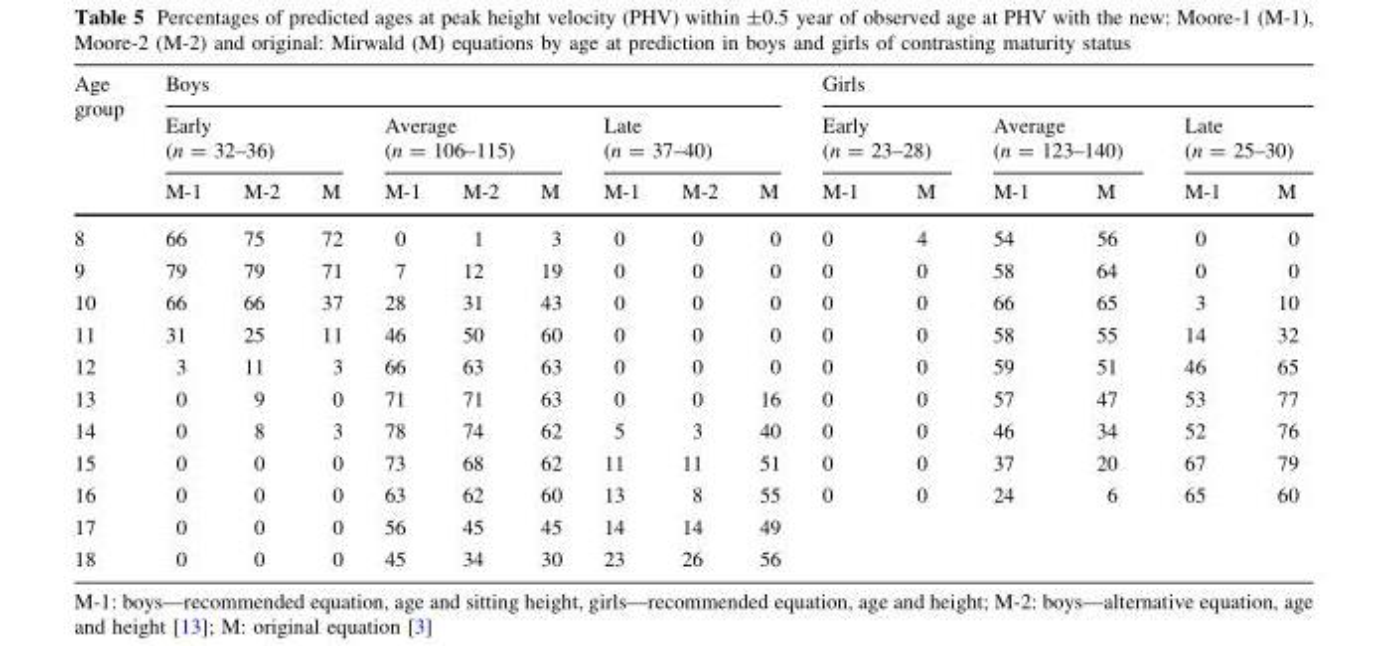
<table><thead><tr><td rowspan="3">Age group</td><td colspan="9">Boys</td><td colspan="6">Girls</td></tr><tr><td colspan="3">Early (n = 32–36)</td><td colspan="3">Average (n = 106–115)</td><td colspan="3">Late (n = 37–40)</td><td colspan="2">Early (n = 23–28)</td><td colspan="2">Average (n = 123–140)</td><td colspan="2">Late (n = 25–30)</td></tr><tr><td>M-1</td><td>M-2</td><td>M</td><td>M-1</td><td>M-2</td><td>M</td><td>M-1</td><td>M-2</td><td>M</td><td>M-1</td><td>M</td><td>M-1</td><td>M</td><td>M-1</td><td>M</td></tr></thead><tbody><tr><td>8</td><td>66</td><td>75</td><td>72</td><td>0</td><td>1</td><td>3</td><td>0</td><td>0</td><td>0</td><td>0</td><td>4</td><td>54</td><td>56</td><td>0</td><td>0</td></tr><tr><td>9</td><td>79</td><td>79</td><td>71</td><td>7</td><td>12</td><td>19</td><td>0</td><td>0</td><td>0</td><td>0</td><td>0</td><td>58</td><td>64</td><td>0</td><td>0</td></tr><tr><td>10</td><td>66</td><td>66</td><td>37</td><td>28</td><td>31</td><td>43</td><td>0</td><td>0</td><td>0</td><td>0</td><td>0</td><td>66</td><td>65</td><td>3</td><td>10</td></tr><tr><td>11</td><td>31</td><td>25</td><td>11</td><td>46</td><td>50</td><td>60</td><td>0</td><td>0</td><td>0</td><td>0</td><td>0</td><td>58</td><td>55</td><td>14</td><td>32</td></tr><tr><td>12</td><td>3</td><td>11</td><td>3</td><td>66</td><td>63</td><td>63</td><td>0</td><td>0</td><td>0</td><td>0</td><td>0</td><td>59</td><td>51</td><td>46</td><td>65</td></tr><tr><td>13</td><td>0</td><td>9</td><td>0</td><td>71</td><td>71</td><td>63</td><td>0</td><td>0</td><td>16</td><td>0</td><td>0</td><td>57</td><td>47</td><td>53</td><td>77</td></tr><tr><td>14</td><td>0</td><td>8</td><td>3</td><td>78</td><td>74</td><td>62</td><td>5</td><td>3</td><td>40</td><td>0</td><td>0</td><td>46</td><td>34</td><td>52</td><td>76</td></tr><tr><td>15</td><td>0</td><td>0</td><td>0</td><td>73</td><td>68</td><td>62</td><td>11</td><td>11</td><td>51</td><td>0</td><td>0</td><td>37</td><td>20</td><td>67</td><td>79</td></tr><tr><td>16</td><td>0</td><td>0</td><td>0</td><td>63</td><td>62</td><td>60</td><td>13</td><td>8</td><td>55</td><td>0</td><td>0</td><td>24</td><td>6</td><td>65</td><td>60</td></tr><tr><td>17</td><td>0</td><td>0</td><td>0</td><td>56</td><td>45</td><td>45</td><td>14</td><td>14</td><td>49</td><td></td><td></td><td></td><td></td><td></td><td></td></tr><tr><td>18</td><td>0</td><td>0</td><td>0</td><td>45</td><td>34</td><td>30</td><td>23</td><td>26</td><td>56</td><td></td><td></td><td></td><td></td><td></td><td></td></tr></tbody></table>